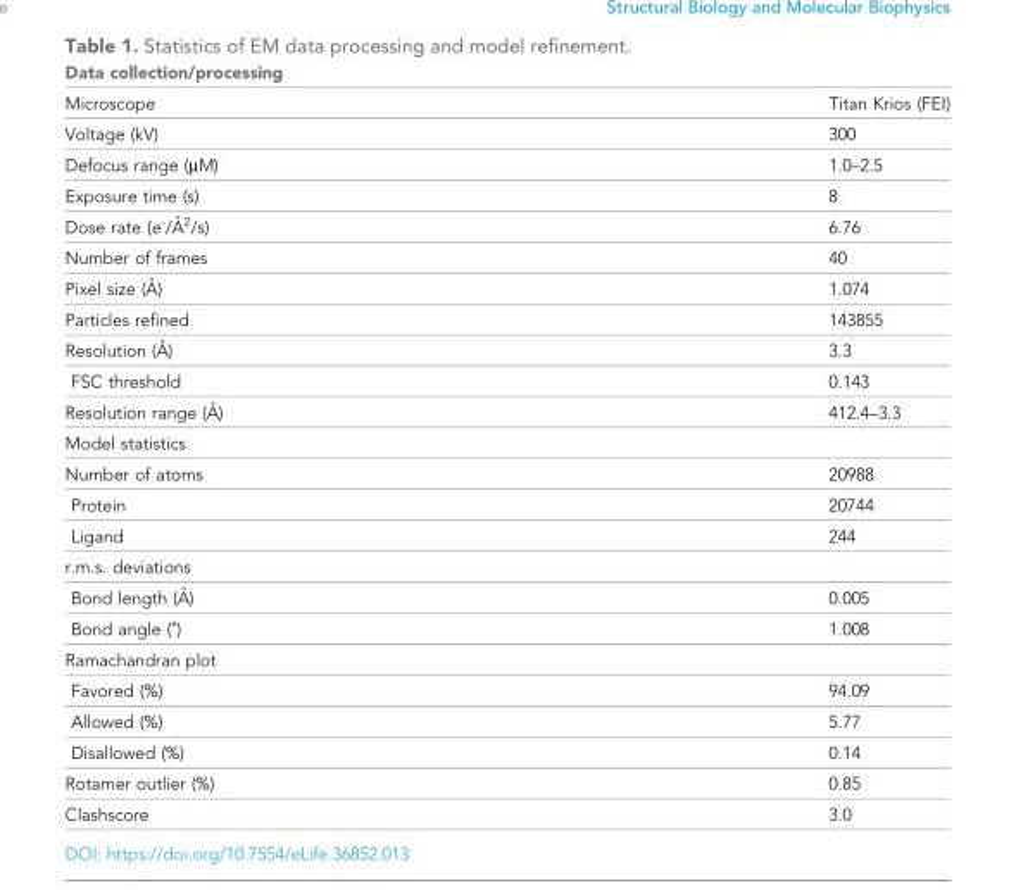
<table><thead><tr><td>Data collection/processing</td><td></td></tr></thead><tbody><tr><td>Microscope</td><td>Titan Krios (FEI)</td></tr><tr><td>Voltage (kV)</td><td>300</td></tr><tr><td>Defocus range (µM)</td><td>1.0–2.5</td></tr><tr><td>Exposure time (s)</td><td>8</td></tr><tr><td>Dose rate (e-/A˚ 2/s)</td><td>6.76</td></tr><tr><td>Number of frames</td><td>40</td></tr><tr><td>Pixel size (A˚ )</td><td>1.074</td></tr><tr><td>Particles refined</td><td>143855</td></tr><tr><td>Resolution (A˚ )</td><td>3.3</td></tr><tr><td>FSC threshold</td><td>0.143</td></tr><tr><td>Resolution range (A˚ )</td><td>412.4–3.3</td></tr><tr><td colspan="2">Model statistics</td></tr><tr><td>Number of atoms</td><td>20988</td></tr><tr><td>Protein</td><td>20744</td></tr><tr><td>Ligand</td><td>244</td></tr><tr><td colspan="2">r.m.s. deviations</td></tr><tr><td>Bond length (A˚ )</td><td>0.005</td></tr><tr><td>Bond angle (˚)</td><td>1.008</td></tr><tr><td colspan="2">Ramachandran plot</td></tr><tr><td>Favored (%)</td><td>94.09</td></tr><tr><td>Allowed (%)</td><td>5.77</td></tr><tr><td>Disallowed (%)</td><td>0.14</td></tr><tr><td>Rotamer outlier (%)</td><td>0.85</td></tr><tr><td>Clashscore</td><td>3.0</td></tr></tbody></table>